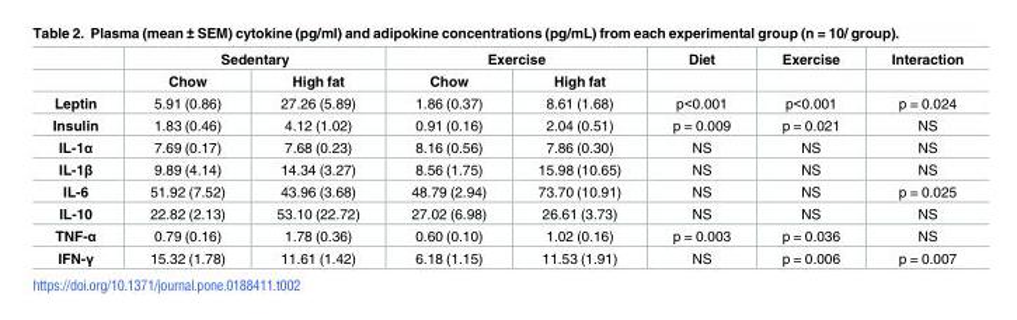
<table><thead><tr><td rowspan="2"></td><td colspan="2">Sedentary</td><td colspan="2">Exercise</td><td rowspan="2">Diet</td><td rowspan="2">Exercise</td><td rowspan="2">Interaction</td></tr><tr><td>Chow</td><td>High fat</td><td>Chow</td><td>High fat</td></tr></thead><tbody><tr><td>Leptin</td><td>5.91 (0.86)</td><td>27.26 (5.89)</td><td>1.86 (0.37)</td><td>8.61 (1.68)</td><td>p&lt;0.001</td><td>p&lt;0.001</td><td>p = 0.024</td></tr><tr><td>Insulin</td><td>1.83 (0.46)</td><td>4.12 (1.02)</td><td>0.91 (0.16)</td><td>2.04 (0.51)</td><td>p = 0.009</td><td>p = 0.021</td><td>NS</td></tr><tr><td>IL-1α</td><td>7.69 (0.17)</td><td>7.68 (0.23)</td><td>8.16 (0.56)</td><td>7.86 (0.30)</td><td>NS</td><td>NS</td><td>NS</td></tr><tr><td>IL-1β</td><td>9.89 (4.14)</td><td>14.34 (3.27)</td><td>8.56 (1.75)</td><td>15.98 (10.65)</td><td>NS</td><td>NS</td><td>NS</td></tr><tr><td>IL-6</td><td>51.92 (7.52)</td><td>43.96 (3.68)</td><td>48.79 (2.94)</td><td>73.70 (10.91)</td><td>NS</td><td>NS</td><td>p = 0.025</td></tr><tr><td>IL-10</td><td>22.82 (2.13)</td><td>53.10 (22.72)</td><td>27.02 (6.98)</td><td>26.61 (3.73)</td><td>NS</td><td>NS</td><td>NS</td></tr><tr><td>TNF-α</td><td>0.79 (0.16)</td><td>1.78 (0.36)</td><td>0.60 (0.10)</td><td>1.02 (0.16)</td><td>p = 0.003</td><td>p = 0.036</td><td>NS</td></tr><tr><td>IFN-γ</td><td>15.32 (1.78)</td><td>11.61 (1.42)</td><td>6.18 (1.15)</td><td>11.53 (1.91)</td><td>NS</td><td>p = 0.006</td><td>p = 0.007</td></tr></tbody></table>